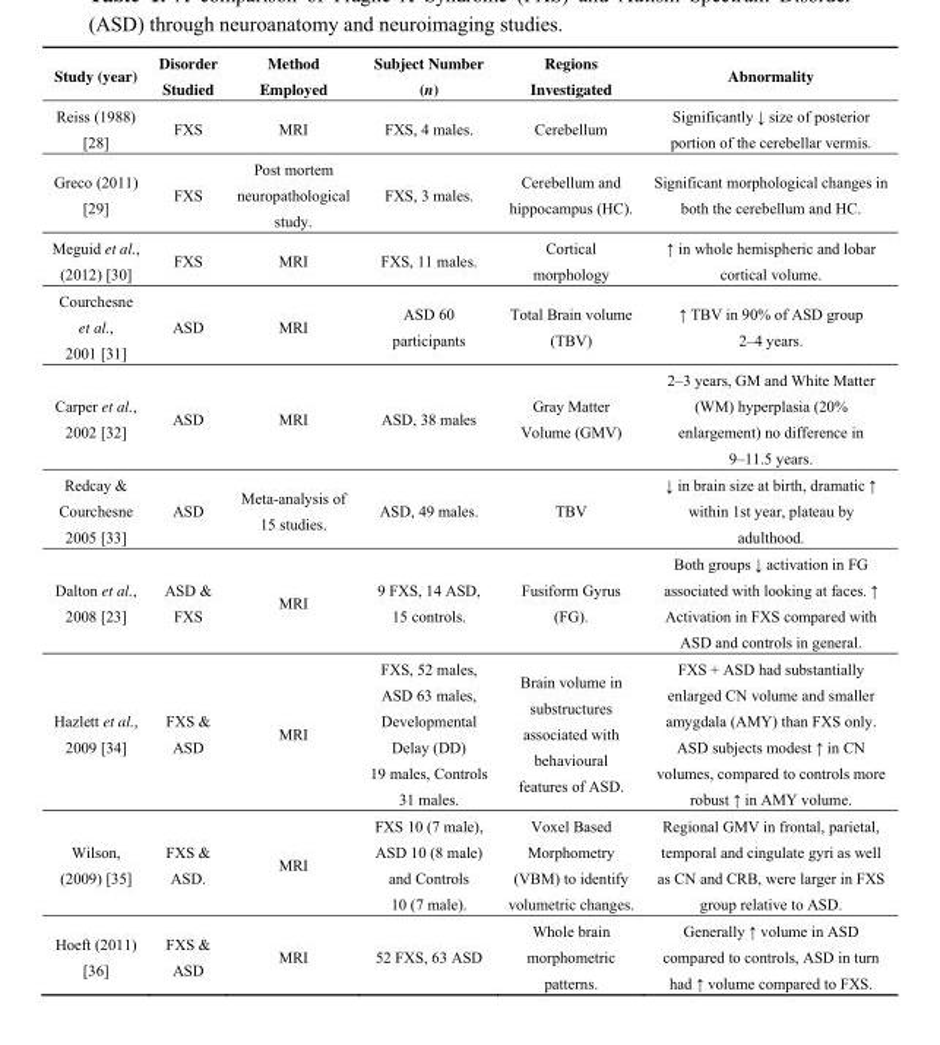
<table><thead><tr><td>Study (year)</td><td>Disorder Studied</td><td>Method Employed</td><td>Subject Number (n)</td><td>Regions Investigated</td><td>Abnormality</td></tr></thead><tbody><tr><td>Reiss (1988) [28]</td><td>FXS</td><td>MRI</td><td>FXS, 4 males.</td><td>Cerebellum</td><td>Significantly ↓ size of posterior portion of the cerebellar vermis.</td></tr><tr><td>Greco (2011) [29]</td><td>FXS</td><td>Post mortem neuropathological study.</td><td>FXS, 3 males.</td><td>Cerebellum and hippocampus (HC).</td><td>Significant morphological changes in both the cerebellum and HC.</td></tr><tr><td>Meguid et al., (2012) [30]</td><td>FXS</td><td>MRI</td><td>FXS, 11 males.</td><td>Cortical morphology</td><td>↑ in whole hemispheric and lobar cortical volume.</td></tr><tr><td>Courchesne et al., 2001 [31]</td><td>ASD</td><td>MRI</td><td>ASD 60 participants</td><td>Total Brain volume (TBV)</td><td>↑ TBV in 90% of ASD group 2–4 years.</td></tr><tr><td>Carper et al., 2002 [32]</td><td>ASD</td><td>MRI</td><td>ASD, 38 males</td><td>Gray Matter Volume (GMV)</td><td>2–3 years, GM and White Matter (WM) hyperplasia (20% enlargement) no difference in 9–11.5 years.</td></tr><tr><td>Redcay &amp; Courchesne 2005 [33]</td><td>ASD</td><td>Meta-analysis of 15 studies.</td><td>ASD, 49 males.</td><td>TBV</td><td>↓ in brain size at birth, dramatic ↑ within 1st year, plateau by adulthood.</td></tr><tr><td>Dalton et al., 2008 [23]</td><td>ASD &amp; FXS</td><td>MRI</td><td>9 FXS, 14 ASD, 15 controls.</td><td>Fusiform Gyrus (FG).</td><td>Both groups ↓ activation in FG associated with looking at faces. ↑ Activation in FXS compared with ASD and controls in general.</td></tr><tr><td>Hazlett et al., 2009 [34]</td><td>FXS &amp; ASD</td><td>MRI</td><td>FXS, 52 males, ASD 63 males, Developmental Delay (DD) 19 males, Controls 31 males.</td><td>Brain volume in substructures associated with behavioural features of ASD.</td><td>FXS + ASD had substantially enlarged CN volume and smaller amygdala (AMY) than FXS only. ASD subjects modest ↑ in CN volumes, compared to controls more robust ↑ in AMY volume.</td></tr><tr><td>Wilson, (2009) [35]</td><td>FXS &amp; ASD.</td><td>MRI</td><td>FXS 10 (7 male), ASD 10 (8 male) and Controls 10 (7 male).</td><td>Voxel Based Morphometry (VBM) to identify volumetric changes.</td><td>Regional GMV in frontal, parietal, temporal and cingulate gyri as well as CN and CRB, were larger in FXS group relative to ASD.</td></tr><tr><td>Hoeft (2011) [36]</td><td>FXS &amp; ASD</td><td>MRI</td><td>52 FXS, 63 ASD</td><td>Whole brain morphometric patterns.</td><td>Generally ↑ volume in ASD compared to controls, ASD in turn had ↑ volume compared to FXS.</td></tr></tbody></table>